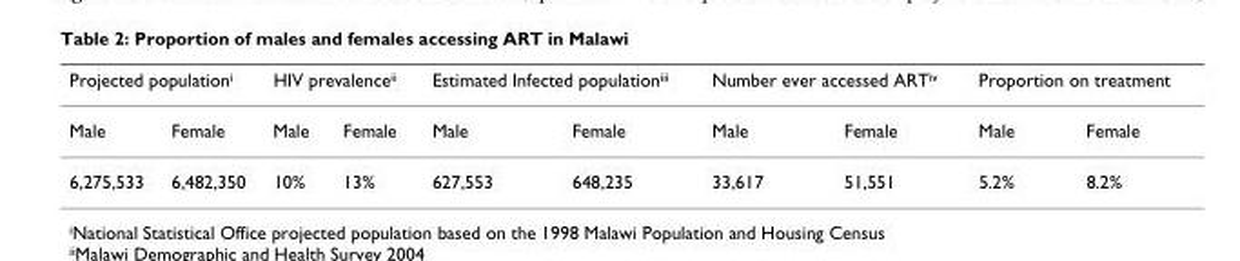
<table><thead><tr><td colspan="2">Projected population<sup>i</sup></td><td colspan="2">HIV prevalence<sup>ii</sup></td><td colspan="2">Estimated Infected population<sup>iii</sup></td><td colspan="2">Number ever accessed ART<sup>iv</sup></td><td colspan="2">Proportion on treatment</td></tr><tr><td>Male</td><td>Female</td><td>Male</td><td>Female</td><td>Male</td><td>Female</td><td>Male</td><td>Female</td><td>Male</td><td>Female</td></tr></thead><tbody><tr><td>6,275,533</td><td>6,482,350</td><td>10%</td><td>13%</td><td>627,553</td><td>648,235</td><td>33,617</td><td>51,551</td><td>5.2%</td><td>8.2%</td></tr></tbody></table>